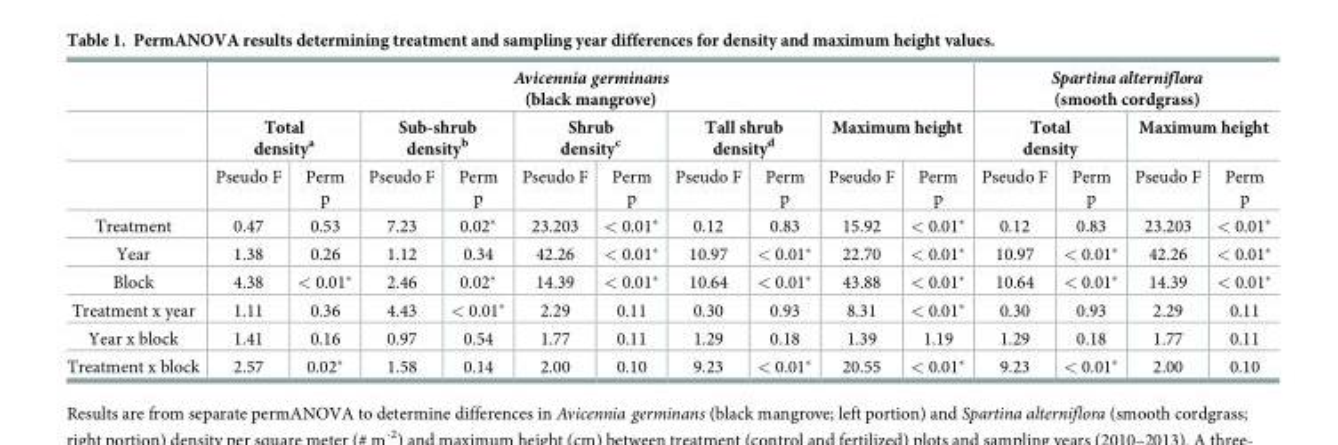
<table><thead><tr><td rowspan="3"></td><td colspan="10">Avicennia germinans (black mangrove)</td><td colspan="4">Spartina alterniflora (smooth cordgrass)</td></tr><tr><td colspan="2">Total density<sup>a</sup></td><td colspan="2">Sub-shrub density<sup>b</sup></td><td colspan="2">Shrub density<sup>c</sup></td><td colspan="2">Tall shrub density<sup>d</sup></td><td colspan="2">Maximum height</td><td colspan="2">Total density</td><td colspan="2">Maximum height</td></tr><tr><td>Pseudo F</td><td>Perm p</td><td>Pseudo F</td><td>Perm p</td><td>Pseudo F</td><td>Perm p</td><td>Pseudo F</td><td>Perm p</td><td>Pseudo F</td><td>Perm p</td><td>Pseudo F</td><td>Perm p</td><td>Pseudo F</td><td>Perm p</td></tr></thead><tbody><tr><td>Treatment</td><td>0.47</td><td>0.53</td><td>7.23</td><td>0.02*</td><td>23.203</td><td>&lt; 0.01*</td><td>0.12</td><td>0.83</td><td>15.92</td><td>&lt; 0.01*</td><td>0.12</td><td>0.83</td><td>23.203</td><td>&lt; 0.01*</td></tr><tr><td>Year</td><td>1.38</td><td>0.26</td><td>1.12</td><td>0.34</td><td>42.26</td><td>&lt; 0.01*</td><td>10.97</td><td>&lt; 0.01*</td><td>22.70</td><td>&lt; 0.01*</td><td>10.97</td><td>&lt; 0.01*</td><td>42.26</td><td>&lt; 0.01*</td></tr><tr><td>Block</td><td>4.38</td><td>&lt; 0.01*</td><td>2.46</td><td>0.02*</td><td>14.39</td><td>&lt; 0.01*</td><td>10.64</td><td>&lt; 0.01*</td><td>43.88</td><td>&lt; 0.01*</td><td>10.64</td><td>&lt; 0.01*</td><td>14.39</td><td>&lt; 0.01*</td></tr><tr><td>Treatment x year</td><td>1.11</td><td>0.36</td><td>4.43</td><td>&lt; 0.01*</td><td>2.29</td><td>0.11</td><td>0.30</td><td>0.93</td><td>8.31</td><td>&lt; 0.01*</td><td>0.30</td><td>0.93</td><td>2.29</td><td>0.11</td></tr><tr><td>Year x block</td><td>1.41</td><td>0.16</td><td>0.97</td><td>0.54</td><td>1.77</td><td>0.11</td><td>1.29</td><td>0.18</td><td>1.39</td><td>1.19</td><td>1.29</td><td>0.18</td><td>1.77</td><td>0.11</td></tr><tr><td>Treatment x block</td><td>2.57</td><td>0.02*</td><td>1.58</td><td>0.14</td><td>2.00</td><td>0.10</td><td>9.23</td><td>&lt; 0.01*</td><td>20.55</td><td>&lt; 0.01*</td><td>9.23</td><td>&lt; 0.01*</td><td>2.00</td><td>0.10</td></tr></tbody></table>